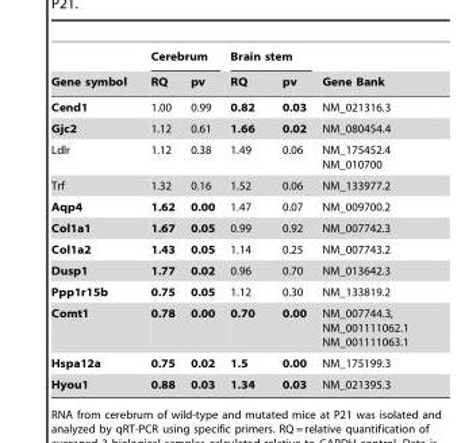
<table><thead><tr><td rowspan="2">Gene symbol</td><td colspan="2">Cerebrum</td><td colspan="2">Brain stem</td><td rowspan="2">Gene Bank</td></tr><tr><td>RQ</td><td>pv</td><td>RQ</td><td>pv</td></tr></thead><tbody><tr><td>Cend1</td><td>1.00</td><td>0.99</td><td>0.82</td><td>0.03</td><td>NM_021316.3</td></tr><tr><td>Gjc2</td><td>1.12</td><td>0.61</td><td>1.66</td><td>0.02</td><td>NM_080454.4</td></tr><tr><td>Ldlr</td><td>1.12</td><td>0.38</td><td>1.49</td><td>0.06</td><td>NM_175452.4 NM_010700</td></tr><tr><td>Trf</td><td>1.32</td><td>0.16</td><td>1.52</td><td>0.06</td><td>NM_133977.2</td></tr><tr><td>Aqp4</td><td>1.62</td><td>0.00</td><td>1.47</td><td>0.07</td><td>NM_009700.2</td></tr><tr><td>Col1a1</td><td>1.67</td><td>0.05</td><td>0.99</td><td>0.92</td><td>NM_007742.3</td></tr><tr><td>Col1a2</td><td>1.43</td><td>0.05</td><td>1.14</td><td>0.25</td><td>NM_007743.2</td></tr><tr><td>Dusp1</td><td>1.77</td><td>0.02</td><td>0.96</td><td>0.70</td><td>NM_013642.3</td></tr><tr><td>Ppp1r15b</td><td>0.75</td><td>0.05</td><td>1.12</td><td>0.30</td><td>NM_133819.2</td></tr><tr><td>Comt1</td><td>0.78</td><td>0.00</td><td>0.70</td><td>0.00</td><td>NM_007744.3, NM_001111062.1 NM_001111063.1</td></tr><tr><td>Hspa12a</td><td>0.75</td><td>0.02</td><td>1.5</td><td>0.00</td><td>NM_175199.3</td></tr><tr><td>Hyou1</td><td>0.88</td><td>0.03</td><td>1.34</td><td>0.03</td><td>NM_021395.3</td></tr></tbody></table>